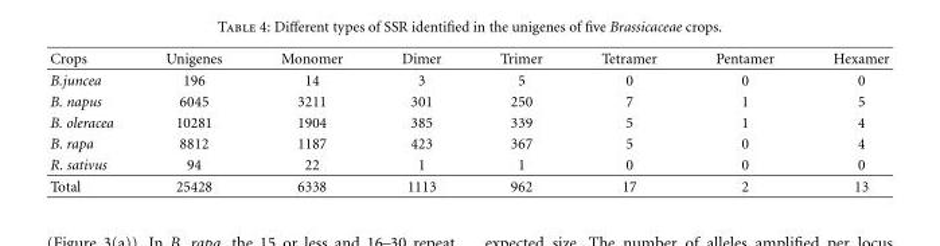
<table><thead><tr><td>Crops</td><td>Unigenes</td><td>Monomer</td><td>Dimer</td><td>Trimer</td><td>Tetramer</td><td>Pentamer</td><td>Hexamer</td></tr></thead><tbody><tr><td>B.juncea</td><td>196</td><td>14</td><td>3</td><td>5</td><td>0</td><td>0</td><td>0</td></tr><tr><td>B. napus</td><td>6045</td><td>3211</td><td>301</td><td>250</td><td>7</td><td>1</td><td>5</td></tr><tr><td>B. oleracea</td><td>10281</td><td>1904</td><td>385</td><td>339</td><td>5</td><td>1</td><td>4</td></tr><tr><td>B. rapa</td><td>8812</td><td>1187</td><td>423</td><td>367</td><td>5</td><td>0</td><td>4</td></tr><tr><td>R. sativus</td><td>94</td><td>22</td><td>1</td><td>1</td><td>0</td><td>0</td><td>0</td></tr><tr><td>Total</td><td>25428</td><td>6338</td><td>1113</td><td>962</td><td>17</td><td>2</td><td>13</td></tr></tbody></table>